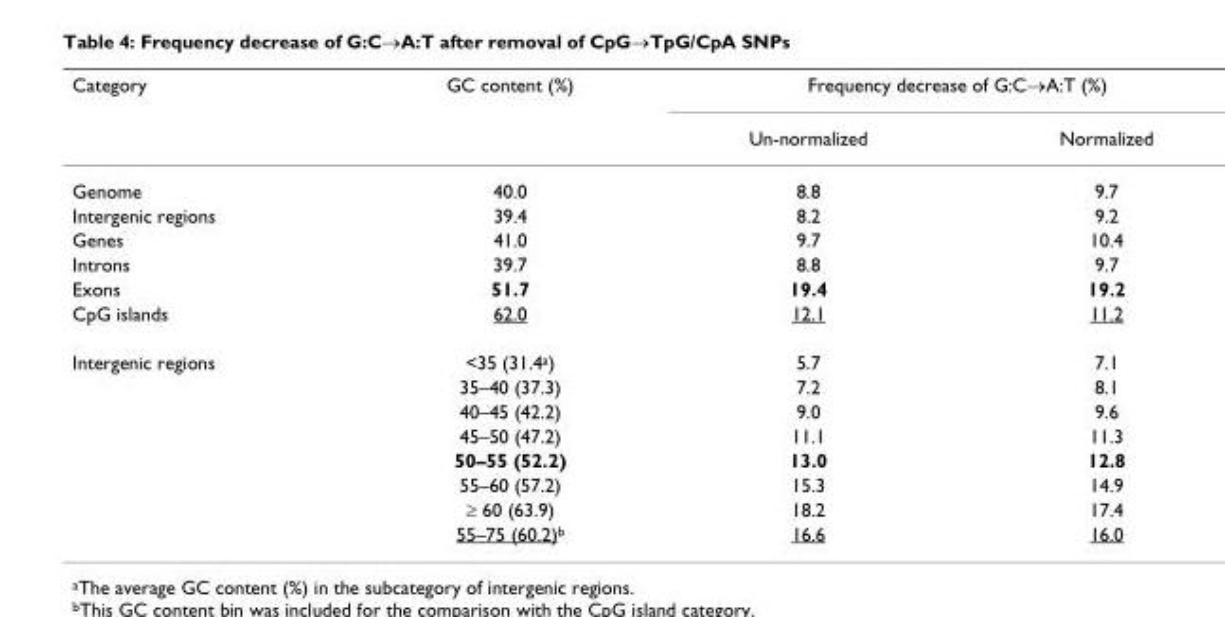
<table><thead><tr><td rowspan="2">Category</td><td rowspan="2">GC content (%)</td><td colspan="2">Frequency decrease of G:C→A:T (%)</td></tr><tr><td>Un-normalized</td><td>Normalized</td></tr></thead><tbody><tr><td>Genome</td><td>40.0</td><td>8.8</td><td>9.7</td></tr><tr><td>Intergenic regions</td><td>39.4</td><td>8.2</td><td>9.2</td></tr><tr><td>Genes</td><td>41.0</td><td>9.7</td><td>10.4</td></tr><tr><td>Introns</td><td>39.7</td><td>8.8</td><td>9.7</td></tr><tr><td>Exons</td><td>51.7</td><td>19.4</td><td>19.2</td></tr><tr><td>CpG islands</td><td>62.0</td><td>12.1</td><td>11.2</td></tr><tr><td rowspan="8">Intergenic regions</td><td>&lt;35 (31.4a)</td><td>5.7</td><td>7.1</td></tr><tr><td>35–40 (37.3)</td><td>7.2</td><td>8.1</td></tr><tr><td>40–45 (42.2)</td><td>9.0</td><td>9.6</td></tr><tr><td>45–50 (47.2)</td><td>11.1</td><td>11.3</td></tr><tr><td>50–55 (52.2)</td><td>13.0</td><td>12.8</td></tr><tr><td>55–60 (57.2)</td><td>15.3</td><td>14.9</td></tr><tr><td>≥ 60 (63.9)</td><td>18.2</td><td>17.4</td></tr><tr><td>55–75 (60.2)b</td><td>16.6</td><td>16.0</td></tr></tbody></table>